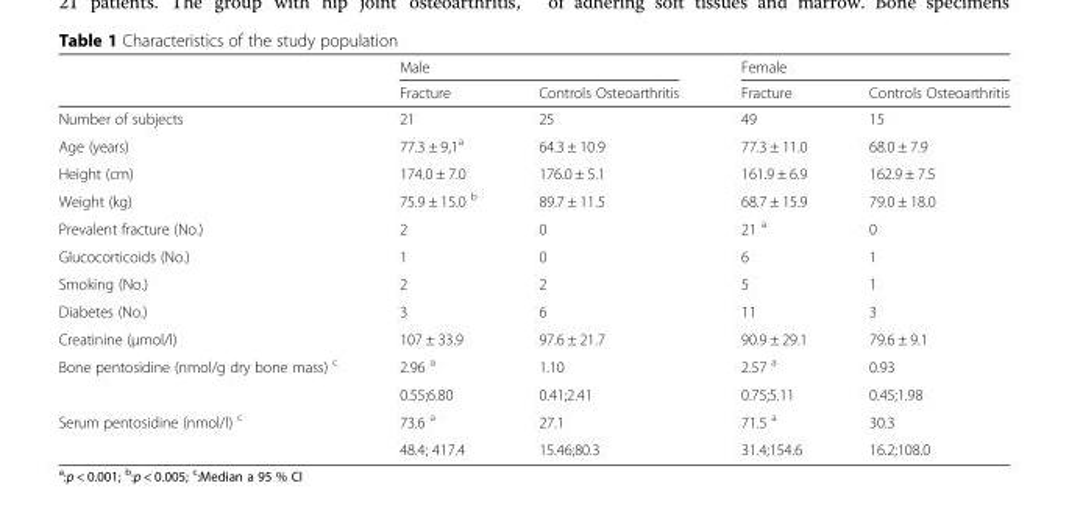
<table><thead><tr><td rowspan="2"></td><td colspan="2">Male</td><td colspan="2">Female</td></tr><tr><td>Fracture</td><td>Controls Osteoarthritis</td><td>Fracture</td><td>Controls Osteoarthritis</td></tr></thead><tbody><tr><td>Number of subjects</td><td>21</td><td>25</td><td>49</td><td>15</td></tr><tr><td>Age (years)</td><td>77.3 ± 9,1<sup>a</sup></td><td>64.3 ± 10.9</td><td>77.3 ± 11.0</td><td>68.0 ± 7.9</td></tr><tr><td>Height (cm)</td><td>174.0 ± 7.0</td><td>176.0 ± 5.1</td><td>161.9 ± 6.9</td><td>162.9 ± 7.5</td></tr><tr><td>Weight (kg)</td><td>75.9 ± 15.0 <sup>b</sup></td><td>89.7 ± 11.5</td><td>68.7 ± 15.9</td><td>79.0 ± 18.0</td></tr><tr><td>Prevalent fracture (No.)</td><td>2</td><td>0</td><td>21 <sup>a</sup></td><td>0</td></tr><tr><td>Glucocorticoids (No.)</td><td>1</td><td>0</td><td>6</td><td>1</td></tr><tr><td>Smoking (No.)</td><td>2</td><td>2</td><td>5</td><td>1</td></tr><tr><td>Diabetes (No.)</td><td>3</td><td>6</td><td>11</td><td>3</td></tr><tr><td>Creatinine (μmol/l)</td><td>107 ± 33.9</td><td>97.6 ± 21.7</td><td>90.9 ± 29.1</td><td>79.6 ± 9.1</td></tr><tr><td rowspan="2">Bone pentosidine (nmol/g dry bone mass) <sup>c</sup></td><td>2.96 <sup>a</sup></td><td>1.10</td><td>2.57 <sup>a</sup></td><td>0.93</td></tr><tr><td>0.55;6.80</td><td>0.41;2.41</td><td>0.75;5.11</td><td>0.45;1.98</td></tr><tr><td rowspan="2">Serum pentosidine (nmol/l) <sup>c</sup></td><td>73.6 <sup>a</sup></td><td>27.1</td><td>71.5 <sup>a</sup></td><td>30.3</td></tr><tr><td>48.4; 417.4</td><td>15.46;80.3</td><td>31.4;154.6</td><td>16.2;108.0</td></tr></tbody></table>